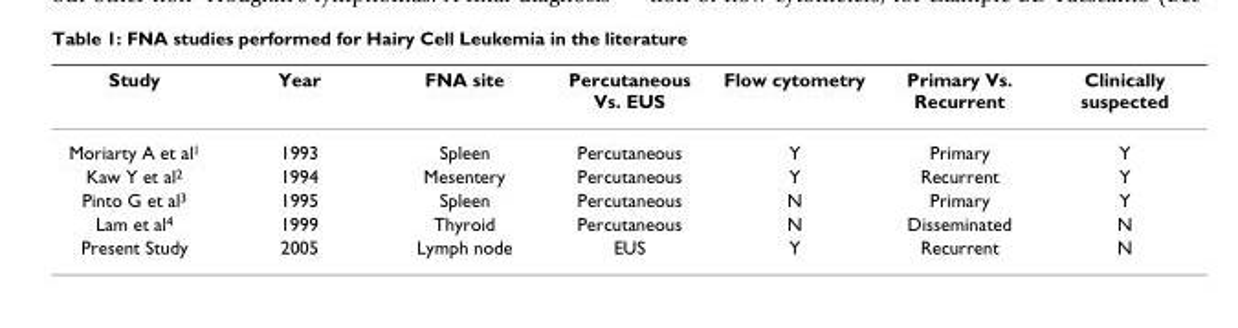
<table><thead><tr><td>Study</td><td>Year</td><td>FNA site</td><td>Percutaneous Vs. EUS</td><td>Flow cytometry</td><td>Primary Vs. Recurrent</td><td>Clinically suspected</td></tr></thead><tbody><tr><td>Moriarty A et al<sup>1</sup></td><td>1993</td><td>Spleen</td><td>Percutaneous</td><td>Y</td><td>Primary</td><td>Y</td></tr><tr><td>Kaw Y et al<sup>2</sup></td><td>1994</td><td>Mesentery</td><td>Percutaneous</td><td>Y</td><td>Recurrent</td><td>Y</td></tr><tr><td>Pinto G et al<sup>3</sup></td><td>1995</td><td>Spleen</td><td>Percutaneous</td><td>N</td><td>Primary</td><td>Y</td></tr><tr><td>Lam et al<sup>4</sup></td><td>1999</td><td>Thyroid</td><td>Percutaneous</td><td>N</td><td>Disseminated</td><td>N</td></tr><tr><td>Present Study</td><td>2005</td><td>Lymph node</td><td>EUS</td><td>Y</td><td>Recurrent</td><td>N</td></tr></tbody></table>